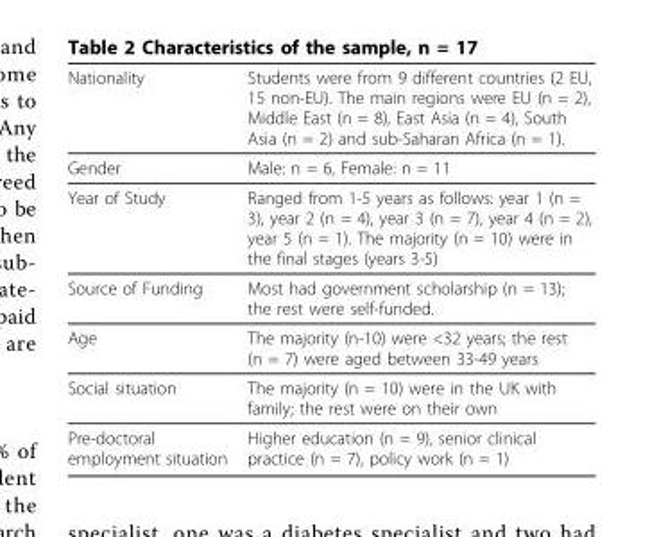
<table><thead><tr><td>Nationality</td><td>Students were from 9 different countries (2 EU, 15 non-EU). The main regions were EU (n = 2), Middle East (n = 8), East Asia (n = 4), South Asia (n = 2) and sub-Saharan Africa (n = 1).</td></tr></thead><tbody><tr><td>Gender</td><td>Male: n = 6, Female: n = 11</td></tr><tr><td>Year of Study</td><td>Ranged from 1-5 years as follows: year 1 (n = 3), year 2 (n = 4), year 3 (n = 7), year 4 (n = 2), year 5 (n = 1). The majority (n = 10) were in the final stages (years 3-5)</td></tr><tr><td>Source of Funding</td><td>Most had government scholarship (n = 13); the rest were self-funded.</td></tr><tr><td>Age</td><td>The majority (n-10) were &lt;32 years; the rest (n = 7) were aged between 33-49 years</td></tr><tr><td>Social situation</td><td>The majority (n = 10) were in the UK with family; the rest were on their own</td></tr><tr><td>Pre-doctoral employment situation</td><td>Higher education (n = 9), senior clinical practice (n = 7), policy work (n = 1)</td></tr></tbody></table>